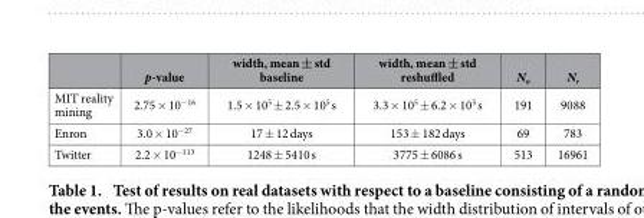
<table><thead><tr><td></td><td>p-value</td><td>width, mean ± std baseline</td><td>width, mean ± std reshuffled</td><td>N<sub>o</sub></td><td>N<sub>r</sub></td></tr></thead><tbody><tr><td>MIT reality mining</td><td>2.75 × 10<sup>−16</sup></td><td>1.5 × 10<sup>5</sup> ± 2.5 × 10<sup>5</sup> s</td><td>3.3 × 10<sup>5</sup> ± 6.2 × 10<sup>5</sup> s</td><td>191</td><td>9088</td></tr><tr><td>Enron</td><td>3.0 × 10<sup>−27</sup></td><td>17 ± 12 days</td><td>153 ± 182 days</td><td>69</td><td>783</td></tr><tr><td>Twitter</td><td>2.2 × 10<sup>−113</sup></td><td>1248 ± 5410 s</td><td>3775 ± 6086 s</td><td>513</td><td>16961</td></tr></tbody></table>